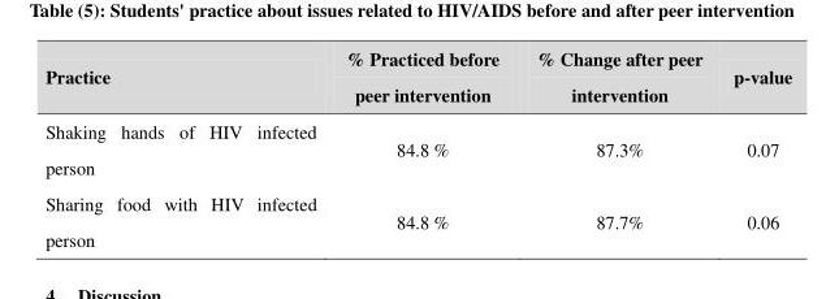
<table><thead><tr><td>Practice</td><td>% Practiced before peer intervention</td><td>% Change after peer intervention</td><td>p-value</td></tr></thead><tbody><tr><td>Shaking hands of HIV infected person</td><td>84.8 %</td><td>87.3%</td><td>0.07</td></tr><tr><td>Sharing food with HIV infected person</td><td>84.8 %</td><td>87.7%</td><td>0.06</td></tr></tbody></table>